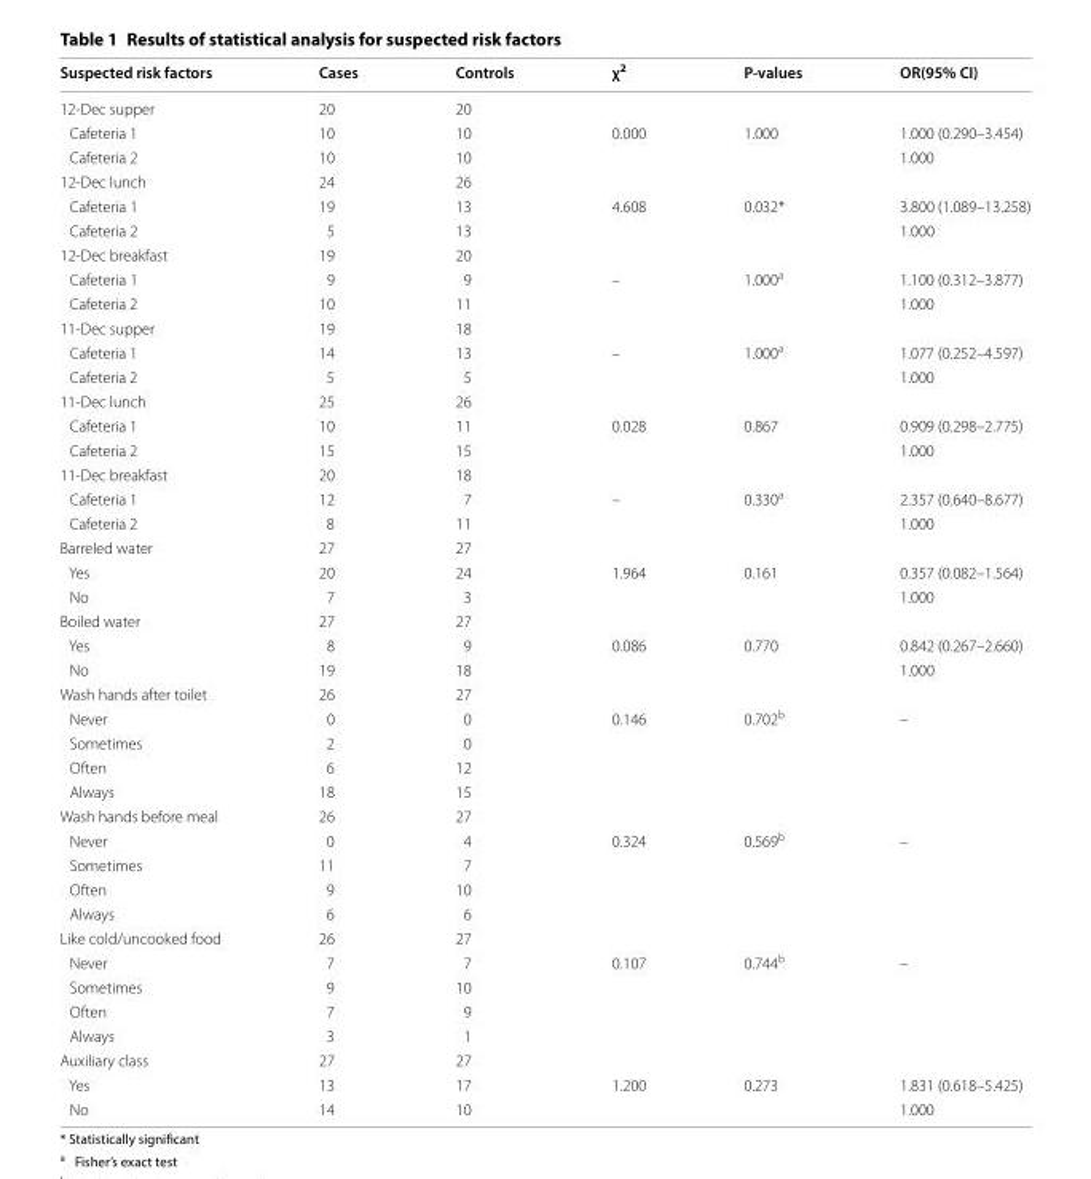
<table><thead><tr><td>Suspected risk factors</td><td>Cases</td><td>Controls</td><td>χ<sup>2</sup></td><td>P-values</td><td>OR(95% CI)</td></tr></thead><tbody><tr><td>12‑Dec supper</td><td>20</td><td>20</td><td></td><td></td><td></td></tr><tr><td>Cafeteria 1</td><td>10</td><td>10</td><td>0.000</td><td>1.000</td><td>1.000 (0.290–3.454)</td></tr><tr><td>Cafeteria 2</td><td>10</td><td>10</td><td></td><td></td><td>1.000</td></tr><tr><td>12‑Dec lunch</td><td>24</td><td>26</td><td></td><td></td><td></td></tr><tr><td>Cafeteria 1</td><td>19</td><td>13</td><td>4.608</td><td>0.032*</td><td>3.800 (1.089–13.258)</td></tr><tr><td>Cafeteria 2</td><td>5</td><td>13</td><td></td><td></td><td>1.000</td></tr><tr><td>12‑Dec breakfast</td><td>19</td><td>20</td><td></td><td></td><td></td></tr><tr><td>Cafeteria 1</td><td>9</td><td>9</td><td>–</td><td>1.000<sup>a</sup></td><td>1.100 (0.312–3.877)</td></tr><tr><td>Cafeteria 2</td><td>10</td><td>11</td><td></td><td></td><td>1.000</td></tr><tr><td>11‑Dec supper</td><td>19</td><td>18</td><td></td><td></td><td></td></tr><tr><td>Cafeteria 1</td><td>14</td><td>13</td><td>–</td><td>1.000<sup>a</sup></td><td>1.077 (0.252–4.597)</td></tr><tr><td>Cafeteria 2</td><td>5</td><td>5</td><td></td><td></td><td>1.000</td></tr><tr><td>11‑Dec lunch</td><td>25</td><td>26</td><td></td><td></td><td></td></tr><tr><td>Cafeteria 1</td><td>10</td><td>11</td><td>0.028</td><td>0.867</td><td>0.909 (0.298–2.775)</td></tr><tr><td>Cafeteria 2</td><td>15</td><td>15</td><td></td><td></td><td>1.000</td></tr><tr><td>11‑Dec breakfast</td><td>20</td><td>18</td><td></td><td></td><td></td></tr><tr><td>Cafeteria 1</td><td>12</td><td>7</td><td>–</td><td>0.330<sup>a</sup></td><td>2.357 (0.640–8.677)</td></tr><tr><td>Cafeteria 2</td><td>8</td><td>11</td><td></td><td></td><td>1.000</td></tr><tr><td>Barreled water</td><td>27</td><td>27</td><td></td><td></td><td></td></tr><tr><td>Yes</td><td>20</td><td>24</td><td>1.964</td><td>0.161</td><td>0.357 (0.082–1.564)</td></tr><tr><td>No</td><td>7</td><td>3</td><td></td><td></td><td>1.000</td></tr><tr><td>Boiled water</td><td>27</td><td>27</td><td></td><td></td><td></td></tr><tr><td>Yes</td><td>8</td><td>9</td><td>0.086</td><td>0.770</td><td>0.842 (0.267–2.660)</td></tr><tr><td>No</td><td>19</td><td>18</td><td></td><td></td><td>1.000</td></tr><tr><td>Wash hands after toilet</td><td>26</td><td>27</td><td></td><td></td><td></td></tr><tr><td>Never</td><td>0</td><td>0</td><td>0.146</td><td>0.702<sup>b</sup></td><td>–</td></tr><tr><td>Sometimes</td><td>2</td><td>0</td><td></td><td></td><td></td></tr><tr><td>Often</td><td>6</td><td>12</td><td></td><td></td><td></td></tr><tr><td>Always</td><td>18</td><td>15</td><td></td><td></td><td></td></tr><tr><td>Wash hands before meal</td><td>26</td><td>27</td><td></td><td></td><td></td></tr><tr><td>Never</td><td>0</td><td>4</td><td>0.324</td><td>0.569<sup>b</sup></td><td>–</td></tr><tr><td>Sometimes</td><td>11</td><td>7</td><td></td><td></td><td></td></tr><tr><td>Often</td><td>9</td><td>10</td><td></td><td></td><td></td></tr><tr><td>Always</td><td>6</td><td>6</td><td></td><td></td><td></td></tr><tr><td>Like cold/uncooked food</td><td>26</td><td>27</td><td></td><td></td><td></td></tr><tr><td>Never</td><td>7</td><td>7</td><td>0.107</td><td>0.744<sup>b</sup></td><td>–</td></tr><tr><td>Sometimes</td><td>9</td><td>10</td><td></td><td></td><td></td></tr><tr><td>Often</td><td>7</td><td>9</td><td></td><td></td><td></td></tr><tr><td>Always</td><td>3</td><td>1</td><td></td><td></td><td></td></tr><tr><td>Auxiliary class</td><td>27</td><td>27</td><td></td><td></td><td></td></tr><tr><td>Yes</td><td>13</td><td>17</td><td>1.200</td><td>0.273</td><td>1.831 (0.618–5.425)</td></tr><tr><td>No</td><td>14</td><td>10</td><td></td><td></td><td>1.000</td></tr></tbody></table>